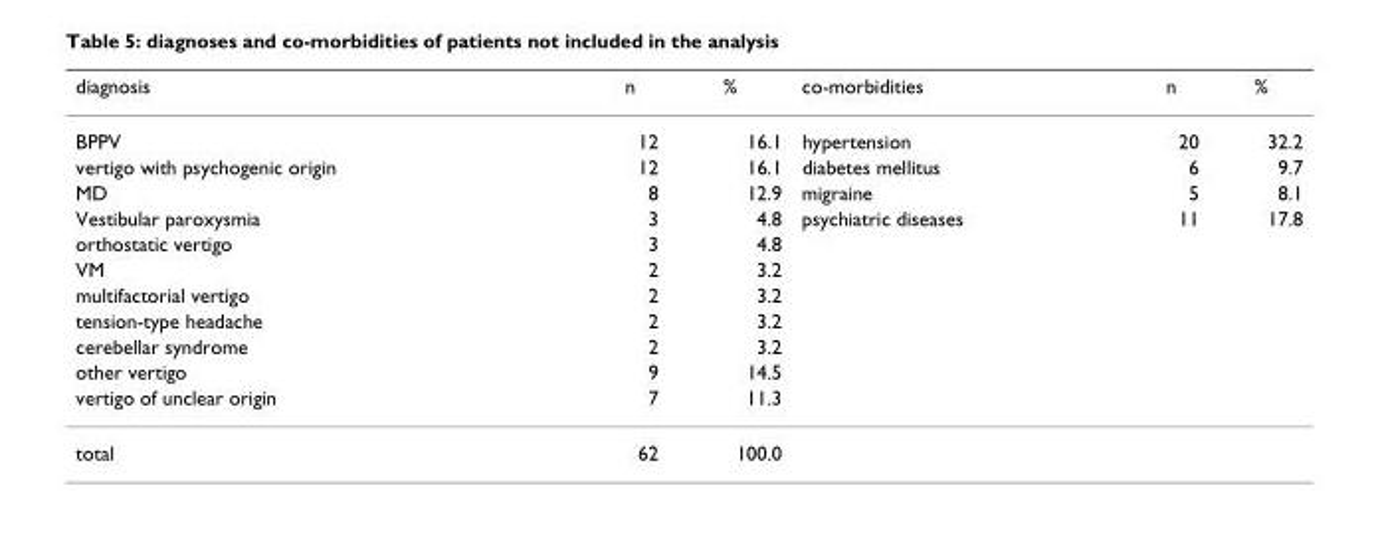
<table><thead><tr><td>diagnosis</td><td>n</td><td>%</td><td>co-morbidities</td><td>n</td><td>%</td></tr></thead><tbody><tr><td>BPPV</td><td>12</td><td>16.1</td><td>hypertension</td><td>20</td><td>32.2</td></tr><tr><td>vertigo with psychogenic origin</td><td>12</td><td>16.1</td><td>diabetes mellitus</td><td>6</td><td>9.7</td></tr><tr><td>MD</td><td>8</td><td>12.9</td><td>migraine</td><td>5</td><td>8.1</td></tr><tr><td>Vestibular paroxysmia</td><td>3</td><td>4.8</td><td>psychiatric diseases</td><td>11</td><td>17.8</td></tr><tr><td>orthostatic vertigo</td><td>3</td><td>4.8</td><td></td><td></td><td></td></tr><tr><td>VM</td><td>2</td><td>3.2</td><td></td><td></td><td></td></tr><tr><td>multifactorial vertigo</td><td>2</td><td>3.2</td><td></td><td></td><td></td></tr><tr><td>tension-type headache</td><td>2</td><td>3.2</td><td></td><td></td><td></td></tr><tr><td>cerebellar syndrome</td><td>2</td><td>3.2</td><td></td><td></td><td></td></tr><tr><td>other vertigo</td><td>9</td><td>14.5</td><td></td><td></td><td></td></tr><tr><td>vertigo of unclear origin</td><td>7</td><td>11.3</td><td></td><td></td><td></td></tr><tr><td>total</td><td>62</td><td>100.0</td><td></td><td></td><td></td></tr></tbody></table>